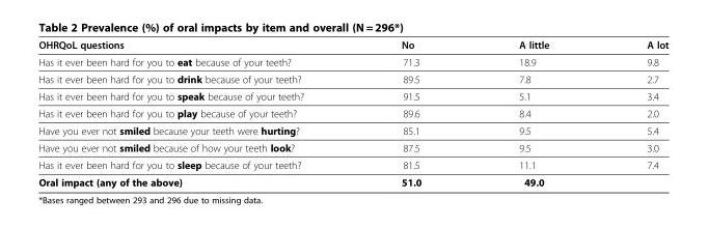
<table><thead><tr><td>OHRQoL questions</td><td>No</td><td>A little</td><td>A lot</td></tr></thead><tbody><tr><td>Has it ever been hard for you to eat because of your teeth?</td><td>71.3</td><td>18.9</td><td>9.8</td></tr><tr><td>Has it ever been hard for you to drink because of your teeth?</td><td>89.5</td><td>7.8</td><td>2.7</td></tr><tr><td>Has it ever been hard for you to speak because of your teeth?</td><td>91.5</td><td>5.1</td><td>3.4</td></tr><tr><td>Has it ever been hard for you to play because of your teeth?</td><td>89.6</td><td>8.4</td><td>2.0</td></tr><tr><td>Have you ever not smiled because your teeth were hurting?</td><td>85.1</td><td>9.5</td><td>5.4</td></tr><tr><td>Have you ever not smiled because of how your teeth look?</td><td>87.5</td><td>9.5</td><td>3.0</td></tr><tr><td>Has it ever been hard for you to sleep because of your teeth?</td><td>81.5</td><td>11.1</td><td>7.4</td></tr><tr><td>Oral impact (any of the above)</td><td>51.0</td><td colspan="2">49.0</td></tr></tbody></table>